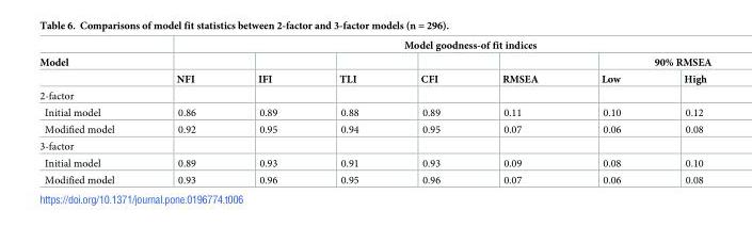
<table><thead><tr><td rowspan="3">Model</td><td colspan="7">Model goodness-of fit indices</td></tr><tr><td rowspan="2">NFI</td><td rowspan="2">IFI</td><td rowspan="2">TLI</td><td rowspan="2">CFI</td><td rowspan="2">RMSEA</td><td colspan="2">90% RMSEA</td></tr><tr><td>Low</td><td>High</td></tr></thead><tbody><tr><td colspan="8">2-factor</td></tr><tr><td>Initial model</td><td>0.86</td><td>0.89</td><td>0.88</td><td>0.89</td><td>0.11</td><td>0.10</td><td>0.12</td></tr><tr><td>Modified model</td><td>0.92</td><td>0.95</td><td>0.94</td><td>0.95</td><td>0.07</td><td>0.06</td><td>0.08</td></tr><tr><td colspan="8">3-factor</td></tr><tr><td>Initial model</td><td>0.89</td><td>0.93</td><td>0.91</td><td>0.93</td><td>0.09</td><td>0.08</td><td>0.10</td></tr><tr><td>Modified model</td><td>0.93</td><td>0.96</td><td>0.95</td><td>0.96</td><td>0.07</td><td>0.06</td><td>0.08</td></tr></tbody></table>